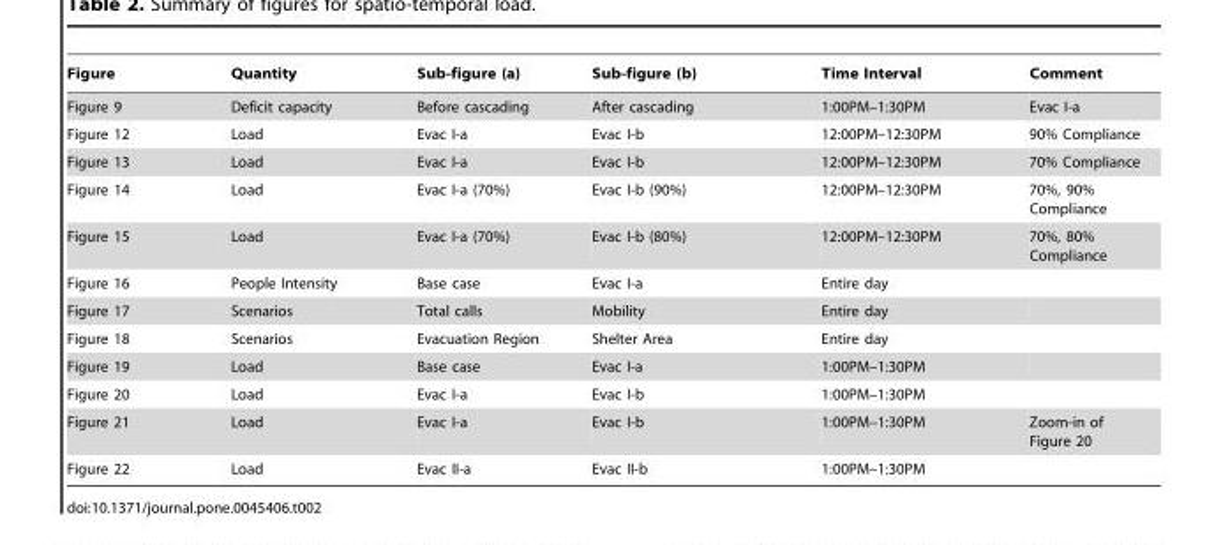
<table><thead><tr><td>Figure</td><td>Quantity</td><td>Sub-figure (a)</td><td>Sub-figure (b)</td><td>Time Interval</td><td>Comment</td></tr></thead><tbody><tr><td>Figure 9</td><td>Deficit capacity</td><td>Before cascading</td><td>After cascading</td><td>1:00PM–1:30PM</td><td>Evac I-a</td></tr><tr><td>Figure 12</td><td>Load</td><td>Evac I-a</td><td>Evac I-b</td><td>12:00PM–12:30PM</td><td>90% Compliance</td></tr><tr><td>Figure 13</td><td>Load</td><td>Evac I-a</td><td>Evac I-b</td><td>12:00PM–12:30PM</td><td>70% Compliance</td></tr><tr><td>Figure 14</td><td>Load</td><td>Evac I-a (70%)</td><td>Evac I-b (90%)</td><td>12:00PM–12:30PM</td><td>70%, 90% Compliance</td></tr><tr><td>Figure 15</td><td>Load</td><td>Evac I-a (70%)</td><td>Evac I-b (80%)</td><td>12:00PM–12:30PM</td><td>70%, 80% Compliance</td></tr><tr><td>Figure 16</td><td>People Intensity</td><td>Base case</td><td>Evac I-a</td><td>Entire day</td><td></td></tr><tr><td>Figure 17</td><td>Scenarios</td><td>Total calls</td><td>Mobility</td><td>Entire day</td><td></td></tr><tr><td>Figure 18</td><td>Scenarios</td><td>Evacuation Region</td><td>Shelter Area</td><td>Entire day</td><td></td></tr><tr><td>Figure 19</td><td>Load</td><td>Base case</td><td>Evac I-a</td><td>1:00PM–1:30PM</td><td></td></tr><tr><td>Figure 20</td><td>Load</td><td>Evac I-a</td><td>Evac I-b</td><td>1:00PM–1:30PM</td><td></td></tr><tr><td>Figure 21</td><td>Load</td><td>Evac I-a</td><td>Evac I-b</td><td>1:00PM–1:30PM</td><td>Zoom-in of Figure 20</td></tr><tr><td>Figure 22</td><td>Load</td><td>Evac II-a</td><td>Evac II-b</td><td>1:00PM–1:30PM</td><td></td></tr></tbody></table>